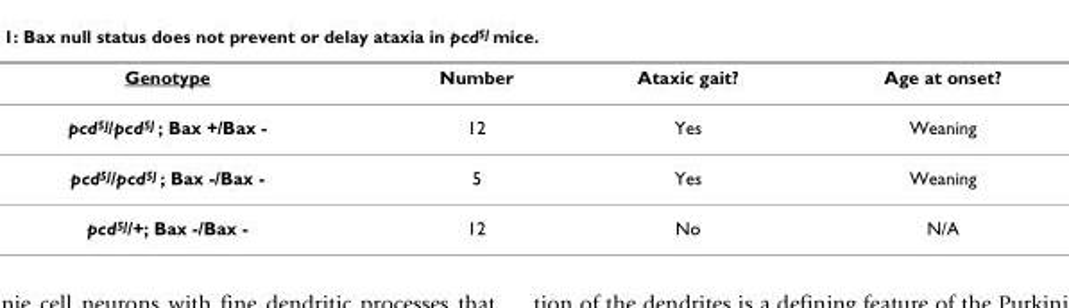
<table><thead><tr><td>Genotype</td><td>Number</td><td>Ataxic gait?</td><td>Age at onset?</td></tr></thead><tbody><tr><td>pcd5J/pcd5J ; Bax +/Bax -</td><td>12</td><td>Yes</td><td>Weaning</td></tr><tr><td>pcd5J/pcd5J ; Bax -/Bax -</td><td>5</td><td>Yes</td><td>Weaning</td></tr><tr><td>pcd5J/+; Bax -/Bax -</td><td>12</td><td>No</td><td>N/A</td></tr></tbody></table>